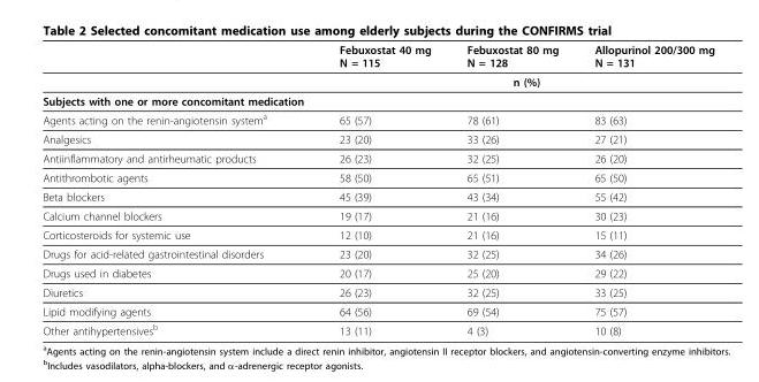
<table><thead><tr><td></td><td>Febuxostat 40 mg N = 115</td><td>Febuxostat 80 mg N = 128</td><td>Allopurinol 200/300 mg N = 131</td></tr></thead><tbody><tr><td></td><td></td><td>n (%)</td><td></td></tr><tr><td colspan="4">Subjects with one or more concomitant medication</td></tr><tr><td>Agents acting on the renin-angiotensin system<sup>a</sup></td><td>65 (57)</td><td>78 (61)</td><td>83 (63)</td></tr><tr><td>Analgesics</td><td>23 (20)</td><td>33 (26)</td><td>27 (21)</td></tr><tr><td>Antiinflammatory and antirheumatic products</td><td>26 (23)</td><td>32 (25)</td><td>26 (20)</td></tr><tr><td>Antithrombotic agents</td><td>58 (50)</td><td>65 (51)</td><td>65 (50)</td></tr><tr><td>Beta blockers</td><td>45 (39)</td><td>43 (34)</td><td>55 (42)</td></tr><tr><td>Calcium channel blockers</td><td>19 (17)</td><td>21 (16)</td><td>30 (23)</td></tr><tr><td>Corticosteroids for systemic use</td><td>12 (10)</td><td>21 (16)</td><td>15 (11)</td></tr><tr><td>Drugs for acid-related gastrointestinal disorders</td><td>23 (20)</td><td>32 (25)</td><td>34 (26)</td></tr><tr><td>Drugs used in diabetes</td><td>20 (17)</td><td>25 (20)</td><td>29 (22)</td></tr><tr><td>Diuretics</td><td>26 (23)</td><td>32 (25)</td><td>33 (25)</td></tr><tr><td>Lipid modifying agents</td><td>64 (56)</td><td>69 (54)</td><td>75 (57)</td></tr><tr><td>Other antihypertensives<sup>b</sup></td><td>13 (11)</td><td>4 (3)</td><td>10 (8)</td></tr></tbody></table>